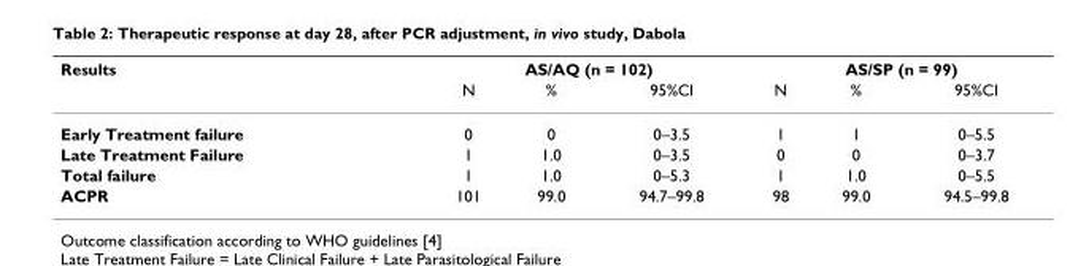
<table><thead><tr><td rowspan="2">Results</td><td colspan="3">AS/AQ (n = 102)</td><td colspan="3">AS/SP (n = 99)</td></tr><tr><td>N</td><td>%</td><td>95%CI</td><td>N</td><td>%</td><td>95%CI</td></tr></thead><tbody><tr><td>Early Treatment failure</td><td>0</td><td>0</td><td>0–3.5</td><td>1</td><td>1</td><td>0–5.5</td></tr><tr><td>Late Treatment Failure</td><td>1</td><td>1.0</td><td>0–3.5</td><td>0</td><td>0</td><td>0–3.7</td></tr><tr><td>Total failure</td><td>1</td><td>1.0</td><td>0–5.3</td><td>1</td><td>1.0</td><td>0–5.5</td></tr><tr><td>ACPR</td><td>101</td><td>99.0</td><td>94.7–99.8</td><td>98</td><td>99.0</td><td>94.5–99.8</td></tr></tbody></table>